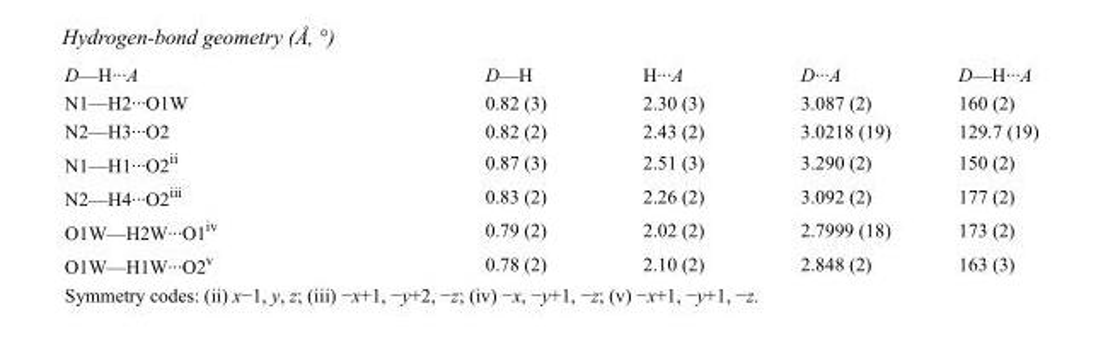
<table><tbody><tr><td>D—H···A</td><td>D—H</td><td>H···A</td><td>D···A</td><td>D—H···A</td></tr><tr><td>N1—H2···O1W</td><td>0.82 (3)</td><td>2.30 (3)</td><td>3.087 (2)</td><td>160 (2)</td></tr><tr><td>N2—H3···O2</td><td>0.82 (2)</td><td>2.43 (2)</td><td>3.0218 (19)</td><td>129.7 (19)</td></tr><tr><td>N1—H1···O2<sup>ii</sup></td><td>0.87 (3)</td><td>2.51 (3)</td><td>3.290 (2)</td><td>150 (2)</td></tr><tr><td>N2—H4···O2<sup>iii</sup></td><td>0.83 (2)</td><td>2.26 (2)</td><td>3.092 (2)</td><td>177 (2)</td></tr><tr><td>O1W—H2W···O1<sup>iv</sup></td><td>0.79 (2)</td><td>2.02 (2)</td><td>2.7999 (18)</td><td>173 (2)</td></tr><tr><td>O1W—H1W···O2<sup>v</sup></td><td>0.78 (2)</td><td>2.10 (2)</td><td>2.848 (2)</td><td>163 (3)</td></tr></tbody></table>